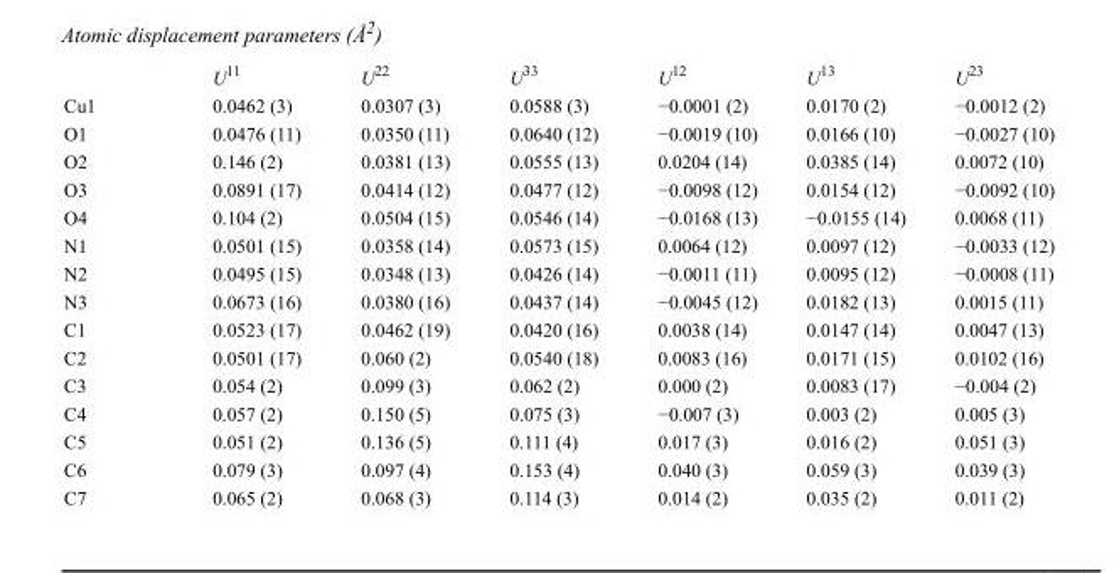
<table><thead><tr><td></td><td>U<sup>11</sup></td><td>U<sup>22</sup></td><td>U<sup>33</sup></td><td>U<sup>12</sup></td><td>U<sup>13</sup></td><td>U<sup>23</sup></td></tr></thead><tbody><tr><td>Cu1</td><td>0.0462 (3)</td><td>0.0307 (3)</td><td>0.0588 (3)</td><td>−0.0001 (2)</td><td>0.0170 (2)</td><td>−0.0012 (2)</td></tr><tr><td>O1</td><td>0.0476 (11)</td><td>0.0350 (11)</td><td>0.0640 (12)</td><td>−0.0019 (10)</td><td>0.0166 (10)</td><td>−0.0027 (10)</td></tr><tr><td>O2</td><td>0.146 (2)</td><td>0.0381 (13)</td><td>0.0555 (13)</td><td>0.0204 (14)</td><td>0.0385 (14)</td><td>0.0072 (10)</td></tr><tr><td>O3</td><td>0.0891 (17)</td><td>0.0414 (12)</td><td>0.0477 (12)</td><td>−0.0098 (12)</td><td>0.0154 (12)</td><td>−0.0092 (10)</td></tr><tr><td>O4</td><td>0.104 (2)</td><td>0.0504 (15)</td><td>0.0546 (14)</td><td>−0.0168 (13)</td><td>−0.0155 (14)</td><td>0.0068 (11)</td></tr><tr><td>N1</td><td>0.0501 (15)</td><td>0.0358 (14)</td><td>0.0573 (15)</td><td>0.0064 (12)</td><td>0.0097 (12)</td><td>−0.0033 (12)</td></tr><tr><td>N2</td><td>0.0495 (15)</td><td>0.0348 (13)</td><td>0.0426 (14)</td><td>−0.0011 (11)</td><td>0.0095 (12)</td><td>−0.0008 (11)</td></tr><tr><td>N3</td><td>0.0673 (16)</td><td>0.0380 (16)</td><td>0.0437 (14)</td><td>−0.0045 (12)</td><td>0.0182 (13)</td><td>0.0015 (11)</td></tr><tr><td>C1</td><td>0.0523 (17)</td><td>0.0462 (19)</td><td>0.0420 (16)</td><td>0.0038 (14)</td><td>0.0147 (14)</td><td>0.0047 (13)</td></tr><tr><td>C2</td><td>0.0501 (17)</td><td>0.060 (2)</td><td>0.0540 (18)</td><td>0.0083 (16)</td><td>0.0171 (15)</td><td>0.0102 (16)</td></tr><tr><td>C3</td><td>0.054 (2)</td><td>0.099 (3)</td><td>0.062 (2)</td><td>0.000 (2)</td><td>0.0083 (17)</td><td>−0.004 (2)</td></tr><tr><td>C4</td><td>0.057 (2)</td><td>0.150 (5)</td><td>0.075 (3)</td><td>−0.007 (3)</td><td>0.003 (2)</td><td>0.005 (3)</td></tr><tr><td>C5</td><td>0.051 (2)</td><td>0.136 (5)</td><td>0.111 (4)</td><td>0.017 (3)</td><td>0.016 (2)</td><td>0.051 (3)</td></tr><tr><td>C6</td><td>0.079 (3)</td><td>0.097 (4)</td><td>0.153 (4)</td><td>0.040 (3)</td><td>0.059 (3)</td><td>0.039 (3)</td></tr><tr><td>C7</td><td>0.065 (2)</td><td>0.068 (3)</td><td>0.114 (3)</td><td>0.014 (2)</td><td>0.035 (2)</td><td>0.011 (2)</td></tr></tbody></table>